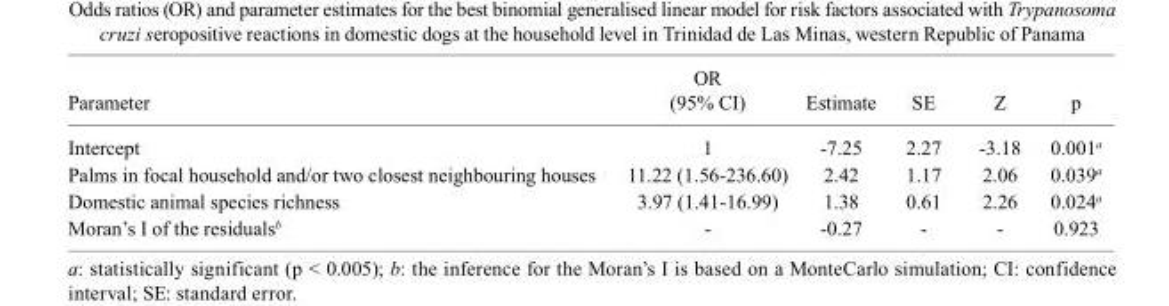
<table><thead><tr><td>Parameter</td><td>OR (95% CI)</td><td>Estimate</td><td>SE</td><td>Z</td><td>p</td></tr></thead><tbody><tr><td>Intercept</td><td>1</td><td>-7.25</td><td>2.27</td><td>-3.18</td><td>0.001<sup>a</sup></td></tr><tr><td>Palms in focal household and/or two closest neighbouring houses</td><td>11.22 (1.56-236.60)</td><td>2.42</td><td>1.17</td><td>2.06</td><td>0.039<sup>a</sup></td></tr><tr><td>Domestic animal species richness</td><td>3.97 (1.41-16.99)</td><td>1.38</td><td>0.61</td><td>2.26</td><td>0.024<sup>a</sup></td></tr><tr><td>Moran’s I of the residuals<sup>b</sup></td><td>-</td><td>-0.27</td><td>-</td><td>-</td><td>0.923</td></tr></tbody></table>